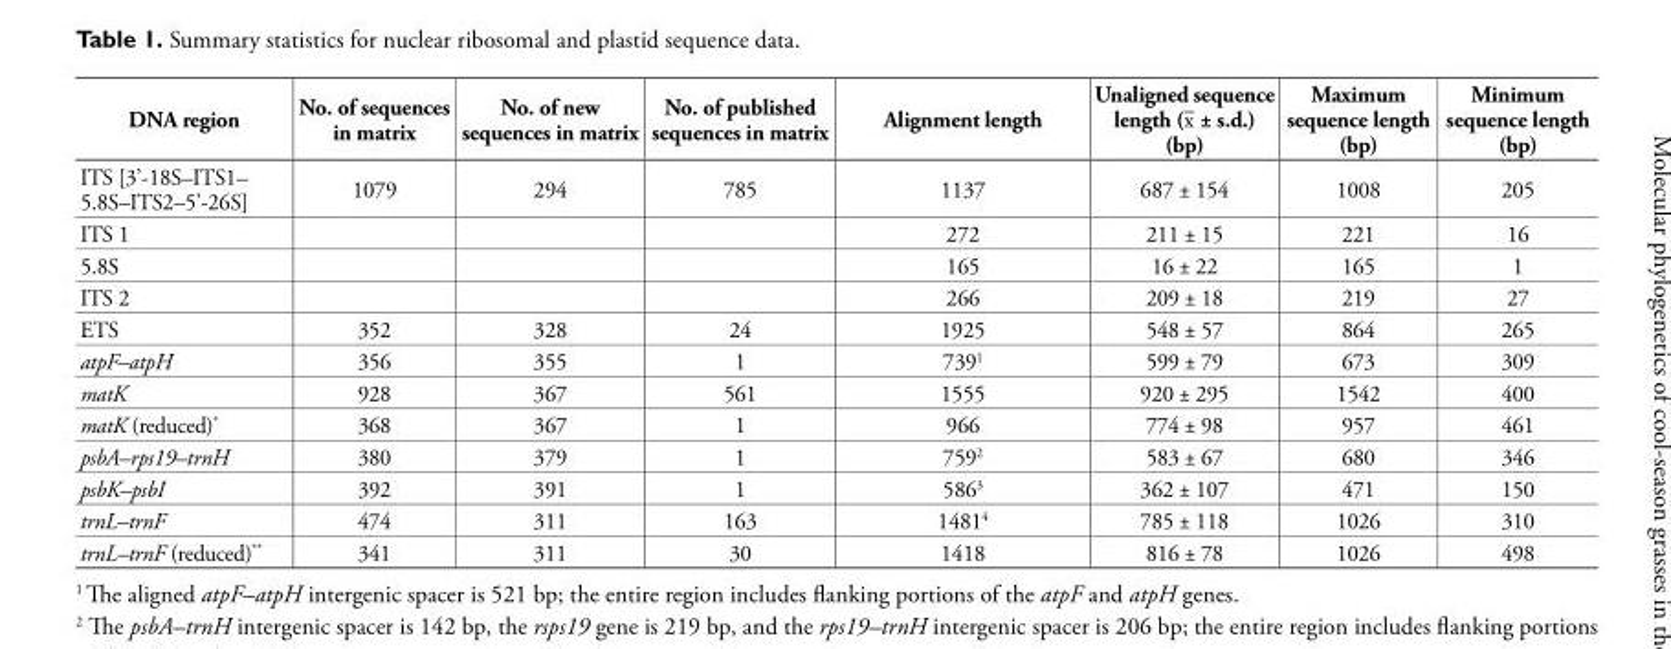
<table><thead><tr><td>DNA region</td><td>No. of sequences in matrix</td><td>No. of new sequences in matrix</td><td>No. of published sequences in matrix</td><td>Alignment length</td><td>Unaligned sequence length (x‒ ± s.d.) (bp)</td><td>Maximum sequence length (bp)</td><td>Minimum sequence length (bp)</td></tr></thead><tbody><tr><td>ITS [3’-18S–ITS1– 5.8S–ITS2–5’-26S]</td><td>1079</td><td>294</td><td>785</td><td>1137</td><td>687 ± 154</td><td>1008</td><td>205</td></tr><tr><td>ITS 1</td><td></td><td></td><td></td><td>272</td><td>211 ± 15</td><td>221</td><td>16</td></tr><tr><td>5.8S</td><td></td><td></td><td></td><td>165</td><td>16 ± 22</td><td>165</td><td>1</td></tr><tr><td>ITS 2</td><td></td><td></td><td></td><td>266</td><td>209 ± 18</td><td>219</td><td>27</td></tr><tr><td>ETS</td><td>352</td><td>328</td><td>24</td><td>1925</td><td>548 ± 57</td><td>864</td><td>265</td></tr><tr><td>atpF–atpH</td><td>356</td><td>355</td><td>1</td><td>739<sup>1</sup></td><td>599 ± 79</td><td>673</td><td>309</td></tr><tr><td>matK</td><td>928</td><td>367</td><td>561</td><td>1555</td><td>920 ± 295</td><td>1542</td><td>400</td></tr><tr><td>matK (reduced)*</td><td>368</td><td>367</td><td>1</td><td>966</td><td>774 ± 98</td><td>957</td><td>461</td></tr><tr><td>psbA–rps19–trnH</td><td>380</td><td>379</td><td>1</td><td>759<sup>2</sup></td><td>583 ± 67</td><td>680</td><td>346</td></tr><tr><td>psbK–psbI</td><td>392</td><td>391</td><td>1</td><td>586<sup>3</sup></td><td>362 ± 107</td><td>471</td><td>150</td></tr><tr><td>trnL–trnF</td><td>474</td><td>311</td><td>163</td><td>1481<sup>4</sup></td><td>785 ± 118</td><td>1026</td><td>310</td></tr><tr><td>trnL–trnF (reduced)**</td><td>341</td><td>311</td><td>30</td><td>1418</td><td>816 ± 78</td><td>1026</td><td>498</td></tr></tbody></table>